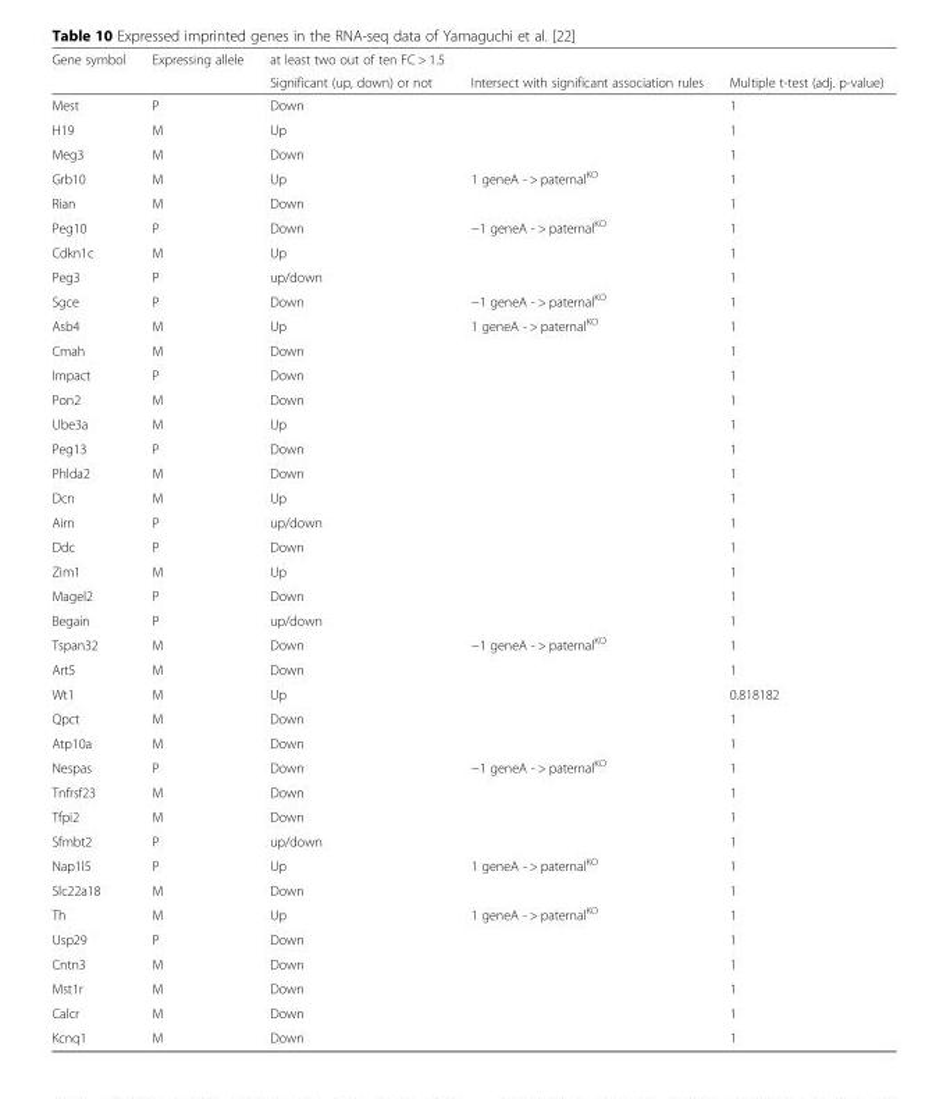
<table><thead><tr><td rowspan="2">Gene symbol</td><td rowspan="2">Expressing allele</td><td rowspan="2">at least two out of ten FC &gt; 1.5 Significant (up, down) or not</td><td rowspan="2">Intersect with significant association rules</td><td rowspan="2">Multiple t-test (adj. p-value)</td></tr><tr></tr></thead><tbody><tr><td>Mest</td><td>P</td><td>Down</td><td></td><td>1</td></tr><tr><td>H19</td><td>M</td><td>Up</td><td></td><td>1</td></tr><tr><td>Meg3</td><td>M</td><td>Down</td><td></td><td>1</td></tr><tr><td>Grb10</td><td>M</td><td>Up</td><td>1 geneA - &gt; paternal<sup>KO</sup></td><td>1</td></tr><tr><td>Rian</td><td>M</td><td>Down</td><td></td><td>1</td></tr><tr><td>Peg10</td><td>P</td><td>Down</td><td>−1 geneA - &gt; paternal<sup>KO</sup></td><td>1</td></tr><tr><td>Cdkn1c</td><td>M</td><td>Up</td><td></td><td>1</td></tr><tr><td>Peg3</td><td>P</td><td>up/down</td><td></td><td>1</td></tr><tr><td>Sgce</td><td>P</td><td>Down</td><td>−1 geneA - &gt; paternal<sup>KO</sup></td><td>1</td></tr><tr><td>Asb4</td><td>M</td><td>Up</td><td>1 geneA - &gt; paternal<sup>KO</sup></td><td>1</td></tr><tr><td>Cmah</td><td>M</td><td>Down</td><td></td><td>1</td></tr><tr><td>Impact</td><td>P</td><td>Down</td><td></td><td>1</td></tr><tr><td>Pon2</td><td>M</td><td>Down</td><td></td><td>1</td></tr><tr><td>Ube3a</td><td>M</td><td>Up</td><td></td><td>1</td></tr><tr><td>Peg13</td><td>P</td><td>Down</td><td></td><td>1</td></tr><tr><td>Phlda2</td><td>M</td><td>Down</td><td></td><td>1</td></tr><tr><td>Dcn</td><td>M</td><td>Up</td><td></td><td>1</td></tr><tr><td>Airn</td><td>P</td><td>up/down</td><td></td><td>1</td></tr><tr><td>Ddc</td><td>P</td><td>Down</td><td></td><td>1</td></tr><tr><td>Zim1</td><td>M</td><td>Up</td><td></td><td>1</td></tr><tr><td>Magel2</td><td>P</td><td>Down</td><td></td><td>1</td></tr><tr><td>Begain</td><td>P</td><td>up/down</td><td></td><td>1</td></tr><tr><td>Tspan32</td><td>M</td><td>Down</td><td>−1 geneA - &gt; paternal<sup>KO</sup></td><td>1</td></tr><tr><td>Art5</td><td>M</td><td>Down</td><td></td><td>1</td></tr><tr><td>Wt1</td><td>M</td><td>Up</td><td></td><td>0.818182</td></tr><tr><td>Qpct</td><td>M</td><td>Down</td><td></td><td>1</td></tr><tr><td>Atp10a</td><td>M</td><td>Down</td><td></td><td>1</td></tr><tr><td>Nespas</td><td>P</td><td>Down</td><td>−1 geneA - &gt; paternal<sup>KO</sup></td><td>1</td></tr><tr><td>Tnfrsf23</td><td>M</td><td>Down</td><td></td><td>1</td></tr><tr><td>Tfpi2</td><td>M</td><td>Down</td><td></td><td>1</td></tr><tr><td>Sfmbt2</td><td>P</td><td>up/down</td><td></td><td>1</td></tr><tr><td>Nap1l5</td><td>P</td><td>Up</td><td>1 geneA - &gt; paternal<sup>KO</sup></td><td>1</td></tr><tr><td>Slc22a18</td><td>M</td><td>Down</td><td></td><td>1</td></tr><tr><td>Th</td><td>M</td><td>Up</td><td>1 geneA - &gt; paternal<sup>KO</sup></td><td>1</td></tr><tr><td>Usp29</td><td>P</td><td>Down</td><td></td><td>1</td></tr><tr><td>Cntn3</td><td>M</td><td>Down</td><td></td><td>1</td></tr><tr><td>Mst1r</td><td>M</td><td>Down</td><td></td><td>1</td></tr><tr><td>Calcr</td><td>M</td><td>Down</td><td></td><td>1</td></tr><tr><td>Kcnq1</td><td>M</td><td>Down</td><td></td><td>1</td></tr></tbody></table>